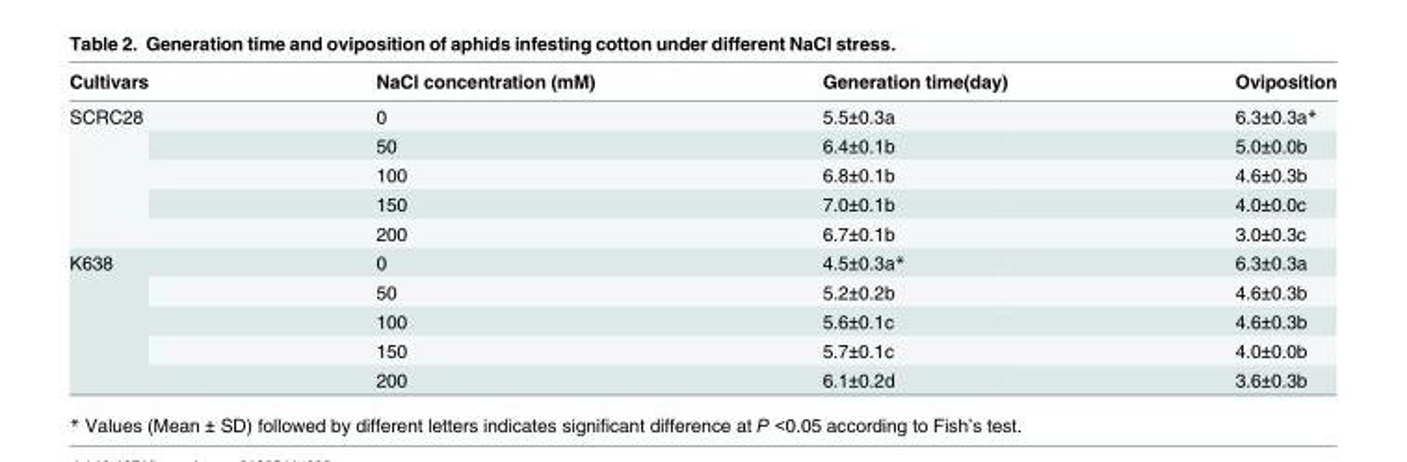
<table><thead><tr><td>Cultivars</td><td>NaCl concentration (mM)</td><td>Generation time(day)</td><td>Oviposition</td></tr></thead><tbody><tr><td rowspan="5">SCRC28</td><td>0</td><td>5.5±0.3a</td><td>6.3±0.3a*</td></tr><tr><td>50</td><td>6.4±0.1b</td><td>5.0±0.0b</td></tr><tr><td>100</td><td>6.8±0.1b</td><td>4.6±0.3b</td></tr><tr><td>150</td><td>7.0±0.1b</td><td>4.0±0.0c</td></tr><tr><td>200</td><td>6.7±0.1b</td><td>3.0±0.3c</td></tr><tr><td rowspan="5">K638</td><td>0</td><td>4.5±0.3a*</td><td>6.3±0.3a</td></tr><tr><td>50</td><td>5.2±0.2b</td><td>4.6±0.3b</td></tr><tr><td>100</td><td>5.6±0.1c</td><td>4.6±0.3b</td></tr><tr><td>150</td><td>5.7±0.1c</td><td>4.0±0.0b</td></tr><tr><td>200</td><td>6.1±0.2d</td><td>3.6±0.3b</td></tr></tbody></table>